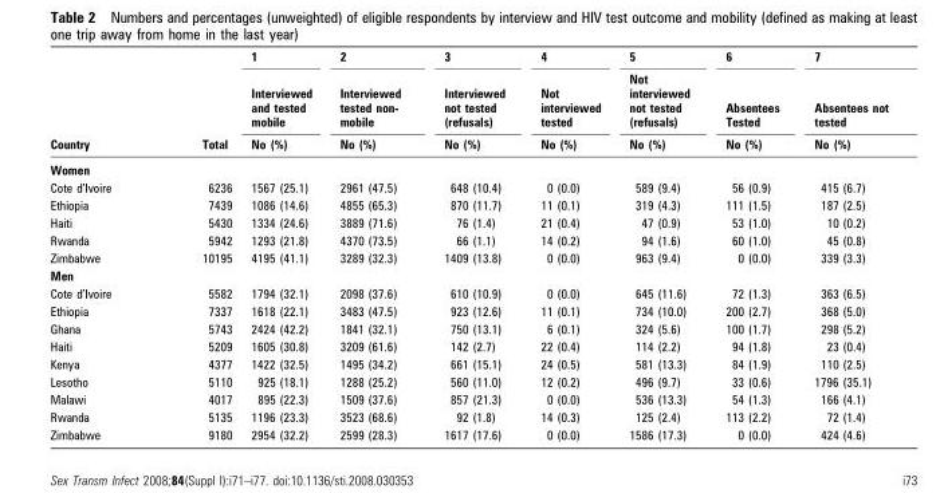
<table><thead><tr><td rowspan="3">Country</td><td rowspan="3">Total</td><td rowspan="3">1 Interviewed and tested mobile No (%)</td><td rowspan="3">2 Interviewed tested non- mobile No (%)</td><td rowspan="3">3 Interviewed not tested (refusals) No (%)</td><td rowspan="3">4 Not interviewed tested No (%)</td><td rowspan="3">5 Not interviewed not tested (refusals) No (%)</td><td rowspan="3">6 Absentees Tested No (%)</td><td rowspan="3">7 Absentees not tested No (%)</td></tr><tr></tr><tr></tr></thead><tbody><tr><td colspan="9">Women</td></tr><tr><td>Cote d’Ivoire</td><td>6236</td><td>1567 (25.1)</td><td>2961 (47.5)</td><td>648 (10.4)</td><td>0 (0.0)</td><td>589 (9.4)</td><td>56 (0.9)</td><td>415 (6.7)</td></tr><tr><td>Ethiopia</td><td>7439</td><td>1086 (14.6)</td><td>4855 (65.3)</td><td>870 (11.7)</td><td>11 (0.1)</td><td>319 (4.3)</td><td>111 (1.5)</td><td>187 (2.5)</td></tr><tr><td>Haiti</td><td>5430</td><td>1334 (24.6)</td><td>3889 (71.6)</td><td>76 (1.4)</td><td>21 (0.4)</td><td>47 (0.9)</td><td>53 (1.0)</td><td>10 (0.2)</td></tr><tr><td>Rwanda</td><td>5942</td><td>1293 (21.8)</td><td>4370 (73.5)</td><td>66 (1.1)</td><td>14 (0.2)</td><td>94 (1.6)</td><td>60 (1.0)</td><td>45 (0.8)</td></tr><tr><td>Zimbabwe</td><td>10195</td><td>4195 (41.1)</td><td>3289 (32.3)</td><td>1409 (13.8)</td><td>0 (0.0)</td><td>963 (9.4)</td><td>0 (0.0)</td><td>339 (3.3)</td></tr><tr><td colspan="9">Men</td></tr><tr><td>Cote d’Ivoire</td><td>5582</td><td>1794 (32.1)</td><td>2098 (37.6)</td><td>610 (10.9)</td><td>0 (0.0)</td><td>645 (11.6)</td><td>72 (1.3)</td><td>363 (6.5)</td></tr><tr><td>Ethiopia</td><td>7337</td><td>1618 (22.1)</td><td>3483 (47.5)</td><td>923 (12.6)</td><td>11 (0.1)</td><td>734 (10.0)</td><td>200 (2.7)</td><td>368 (5.0)</td></tr><tr><td>Ghana</td><td>5743</td><td>2424 (42.2)</td><td>1841 (32.1)</td><td>750 (13.1)</td><td>6 (0.1)</td><td>324 (5.6)</td><td>100 (1.7)</td><td>298 (5.2)</td></tr><tr><td>Haiti</td><td>5209</td><td>1605 (30.8)</td><td>3209 (61.6)</td><td>142 (2.7)</td><td>22 (0.4)</td><td>114 (2.2)</td><td>94 (1.8)</td><td>23 (0.4)</td></tr><tr><td>Kenya</td><td>4377</td><td>1422 (32.5)</td><td>1495 (34.2)</td><td>661 (15.1)</td><td>24 (0.5)</td><td>581 (13.3)</td><td>84 (1.9)</td><td>110 (2.5)</td></tr><tr><td>Lesotho</td><td>5110</td><td>925 (18.1)</td><td>1288 (25.2)</td><td>560 (11.0)</td><td>12 (0.2)</td><td>496 (9.7)</td><td>33 (0.6)</td><td>1796 (35.1)</td></tr><tr><td>Malawi</td><td>4017</td><td>895 (22.3)</td><td>1509 (37.6)</td><td>857 (21.3)</td><td>0 (0.0)</td><td>536 (13.3)</td><td>54 (1.3)</td><td>166 (4.1)</td></tr><tr><td>Rwanda</td><td>5135</td><td>1196 (23.3)</td><td>3523 (68.6)</td><td>92 (1.8)</td><td>14 (0.3)</td><td>125 (2.4)</td><td>113 (2.2)</td><td>72 (1.4)</td></tr><tr><td>Zimbabwe</td><td>9180</td><td>2954 (32.2)</td><td>2599 (28.3)</td><td>1617 (17.6)</td><td>0 (0.0)</td><td>1586 (17.3)</td><td>0 (0.0)</td><td>424 (4.6)</td></tr></tbody></table>